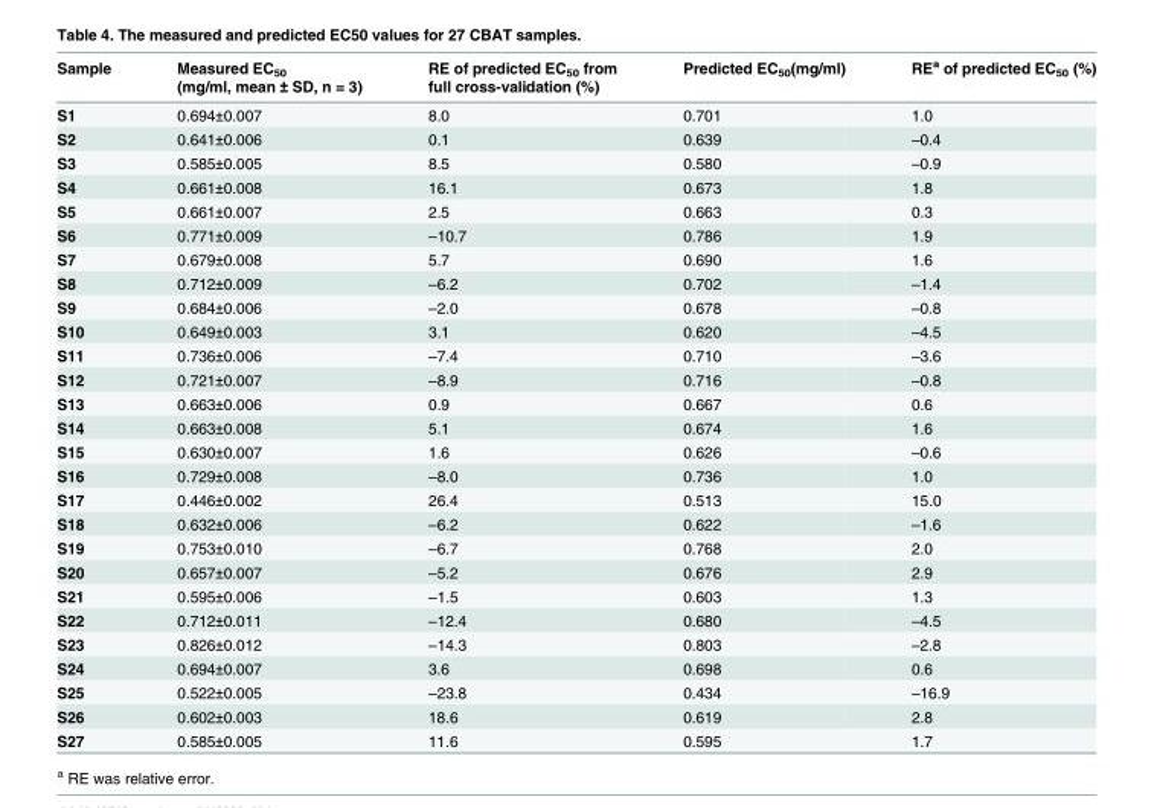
<table><thead><tr><td>Sample</td><td>Measured EC<sub>50</sub> (mg/ml, mean ± SD, n = 3)</td><td>RE of predicted EC<sub>50</sub> from full cross-validation (%)</td><td>Predicted EC<sub>50</sub>(mg/ml)</td><td>RE<sup>a</sup> of predicted EC<sub>50</sub> (%)</td></tr></thead><tbody><tr><td>S1</td><td>0.694±0.007</td><td>8.0</td><td>0.701</td><td>1.0</td></tr><tr><td>S2</td><td>0.641±0.006</td><td>0.1</td><td>0.639</td><td>–0.4</td></tr><tr><td>S3</td><td>0.585±0.005</td><td>8.5</td><td>0.580</td><td>–0.9</td></tr><tr><td>S4</td><td>0.661±0.008</td><td>16.1</td><td>0.673</td><td>1.8</td></tr><tr><td>S5</td><td>0.661±0.007</td><td>2.5</td><td>0.663</td><td>0.3</td></tr><tr><td>S6</td><td>0.771±0.009</td><td>–10.7</td><td>0.786</td><td>1.9</td></tr><tr><td>S7</td><td>0.679±0.008</td><td>5.7</td><td>0.690</td><td>1.6</td></tr><tr><td>S8</td><td>0.712±0.009</td><td>–6.2</td><td>0.702</td><td>–1.4</td></tr><tr><td>S9</td><td>0.684±0.006</td><td>–2.0</td><td>0.678</td><td>–0.8</td></tr><tr><td>S10</td><td>0.649±0.003</td><td>3.1</td><td>0.620</td><td>–4.5</td></tr><tr><td>S11</td><td>0.736±0.006</td><td>–7.4</td><td>0.710</td><td>–3.6</td></tr><tr><td>S12</td><td>0.721±0.007</td><td>–8.9</td><td>0.716</td><td>–0.8</td></tr><tr><td>S13</td><td>0.663±0.006</td><td>0.9</td><td>0.667</td><td>0.6</td></tr><tr><td>S14</td><td>0.663±0.008</td><td>5.1</td><td>0.674</td><td>1.6</td></tr><tr><td>S15</td><td>0.630±0.007</td><td>1.6</td><td>0.626</td><td>–0.6</td></tr><tr><td>S16</td><td>0.729±0.008</td><td>–8.0</td><td>0.736</td><td>1.0</td></tr><tr><td>S17</td><td>0.446±0.002</td><td>26.4</td><td>0.513</td><td>15.0</td></tr><tr><td>S18</td><td>0.632±0.006</td><td>–6.2</td><td>0.622</td><td>–1.6</td></tr><tr><td>S19</td><td>0.753±0.010</td><td>–6.7</td><td>0.768</td><td>2.0</td></tr><tr><td>S20</td><td>0.657±0.007</td><td>–5.2</td><td>0.676</td><td>2.9</td></tr><tr><td>S21</td><td>0.595±0.006</td><td>–1.5</td><td>0.603</td><td>1.3</td></tr><tr><td>S22</td><td>0.712±0.011</td><td>–12.4</td><td>0.680</td><td>–4.5</td></tr><tr><td>S23</td><td>0.826±0.012</td><td>–14.3</td><td>0.803</td><td>–2.8</td></tr><tr><td>S24</td><td>0.694±0.007</td><td>3.6</td><td>0.698</td><td>0.6</td></tr><tr><td>S25</td><td>0.522±0.005</td><td>–23.8</td><td>0.434</td><td>–16.9</td></tr><tr><td>S26</td><td>0.602±0.003</td><td>18.6</td><td>0.619</td><td>2.8</td></tr><tr><td>S27</td><td>0.585±0.005</td><td>11.6</td><td>0.595</td><td>1.7</td></tr></tbody></table>